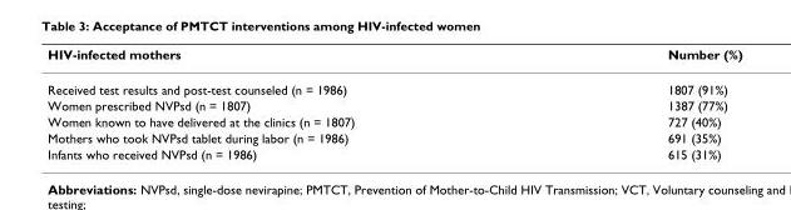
<table><thead><tr><td>HIV-infected mothers</td><td>Number (%)</td></tr></thead><tbody><tr><td>Received test results and post-test counseled (n = 1986)</td><td>1807 (91%)</td></tr><tr><td>Women prescribed NVPsd (n = 1807)</td><td>1387 (77%)</td></tr><tr><td>Women known to have delivered at the clinics (n = 1807)</td><td>727 (40%)</td></tr><tr><td>Mothers who took NVPsd tablet during labor (n = 1986)</td><td>691 (35%)</td></tr><tr><td>Infants who received NVPsd (n = 1986)</td><td>615 (31%)</td></tr></tbody></table>